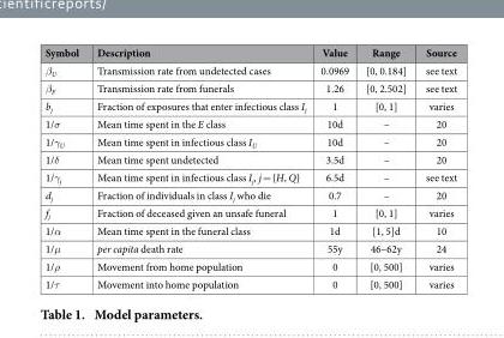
<table><thead><tr><td>Symbol</td><td>Description</td><td>Value</td><td>Range</td><td>Source</td></tr></thead><tbody><tr><td>β<sub>U</sub></td><td>Transmission rate from undetected cases</td><td>0.0969</td><td>[0, 0.184]</td><td>see text</td></tr><tr><td>β<sub>F</sub></td><td>Transmission rate from funerals</td><td>1.26</td><td>[0, 2.502]</td><td>see text</td></tr><tr><td>b<sub>j</sub></td><td>Fraction of exposures that enter infectious class I<sub>j</sub></td><td>1</td><td>[0, 1]</td><td>varies</td></tr><tr><td>1/σ</td><td>Mean time spent in the E class</td><td>10d</td><td>–</td><td>20</td></tr><tr><td>1/γ<sub>U</sub></td><td>Mean time spent in infectious class I<sub>U</sub></td><td>10d</td><td>–</td><td>20</td></tr><tr><td>1/δ</td><td>Mean time spent undetected</td><td>3.5d</td><td>–</td><td>20</td></tr><tr><td>1/γ<sub>j</sub></td><td>Mean time spent in infectious class I<sub>j</sub>, j = {H, Q}</td><td>6.5d</td><td>–</td><td>see text</td></tr><tr><td>d<sub>j</sub></td><td>Fraction of individuals in class I<sub>j</sub> who die</td><td>0.7</td><td>–</td><td>20</td></tr><tr><td>f<sub>j</sub></td><td>Fraction of deceased given an unsafe funeral</td><td>1</td><td>[0, 1]</td><td>varies</td></tr><tr><td>1/α</td><td>Mean time spent in the funeral class</td><td>1d</td><td>[1, 5]d</td><td>10</td></tr><tr><td>1/μ</td><td>per capita death rate</td><td>55y</td><td>46–62y</td><td>24</td></tr><tr><td>1/ρ</td><td>Movement from home population</td><td>0</td><td>[0, 500]</td><td>varies</td></tr><tr><td>1/τ</td><td>Movement into home population</td><td>0</td><td>[0, 500]</td><td>varies</td></tr></tbody></table>